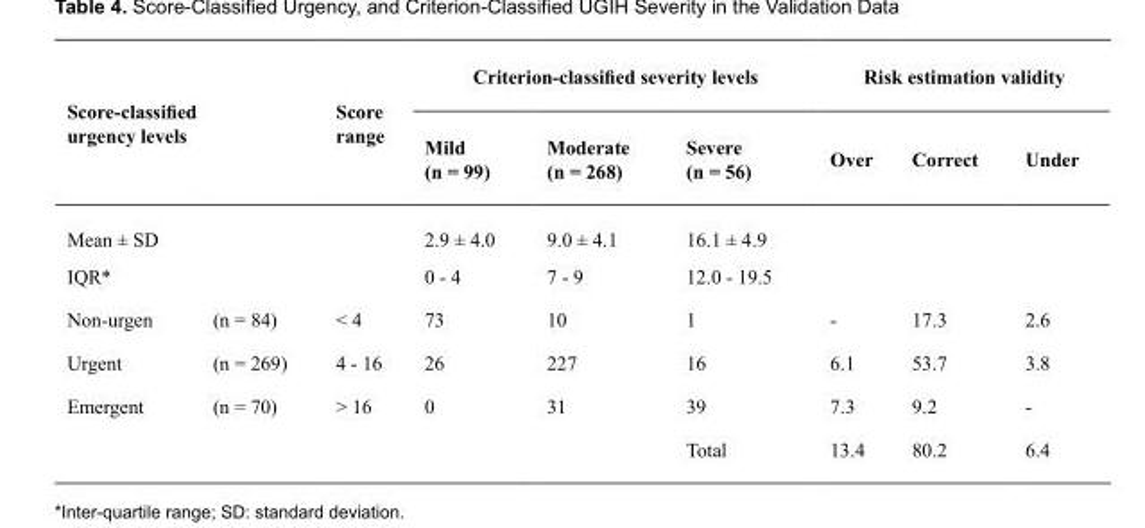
<table><thead><tr><td rowspan="2" colspan="2">Score-classified urgency levels</td><td rowspan="3">Score range</td><td colspan="3">Criterion-classified severity levels</td><td colspan="3">Risk estimation validity</td></tr><tr><td rowspan="2">Mild (n = 99) 2.9 ± 4.0</td><td rowspan="2">Moderate (n = 268) 9.0 ± 4.1</td><td rowspan="2">Severe (n = 56) 16.1 ± 4.9</td><td rowspan="2">Over</td><td rowspan="2">Correct</td><td rowspan="2">Under</td></tr><tr><td>Mean ± SD</td><td></td></tr></thead><tbody><tr><td>IQR*</td><td></td><td></td><td>0 - 4</td><td>7 - 9</td><td>12.0 - 19.5</td><td></td><td></td><td></td></tr><tr><td>Non-urgen</td><td>(n = 84)</td><td>&lt; 4</td><td>73</td><td>10</td><td>1</td><td>-</td><td>17.3</td><td>2.6</td></tr><tr><td>Urgent</td><td>(n = 269)</td><td>4 - 16</td><td>26</td><td>227</td><td>16</td><td>6.1</td><td>53.7</td><td>3.8</td></tr><tr><td rowspan="2">Emergent</td><td>(n = 70)</td><td>&gt; 16</td><td>0</td><td>31</td><td>39</td><td>7.3</td><td>9.2</td><td>-</td></tr><tr><td></td><td></td><td></td><td></td><td>Total</td><td>13.4</td><td>80.2</td><td>6.4</td></tr></tbody></table>